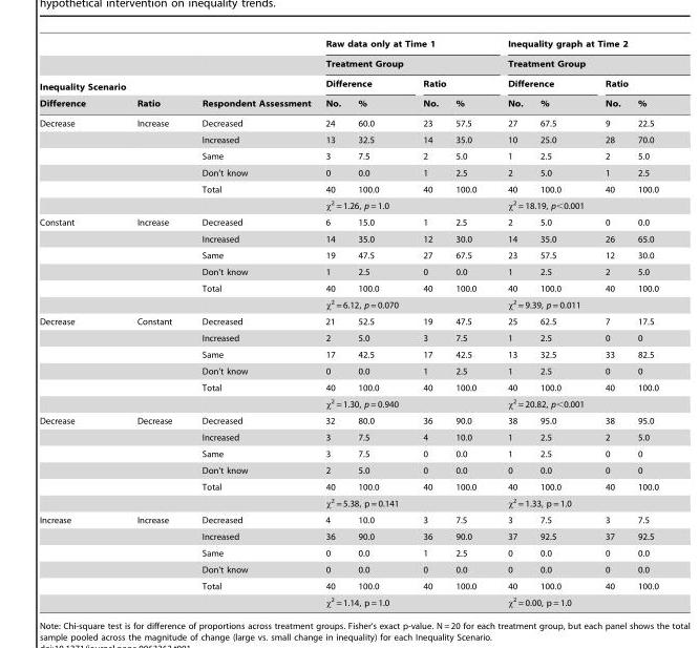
<table><thead><tr><td rowspan="2"></td><td rowspan="2"></td><td rowspan="4">Respondent Assessment</td><td rowspan="2" colspan="4">Raw data only at Time 1 Treatment Group</td><td rowspan="2" colspan="4">Inequality graph at Time 2 Treatment Group</td></tr><tr></tr><tr><td colspan="2">Inequality Scenario</td><td colspan="2">Difference</td><td colspan="2">Ratio</td><td colspan="2">Difference</td><td colspan="2">Ratio</td></tr><tr><td>Difference</td><td>Ratio</td><td>No.</td><td>%</td><td>No.</td><td>%</td><td>No.</td><td>%</td><td>No.</td><td>%</td></tr></thead><tbody><tr><td rowspan="6">Decrease</td><td>Increase</td><td>Decreased</td><td>24</td><td>60.0</td><td>23</td><td>57.5</td><td>27</td><td>67.5</td><td>9</td><td>22.5</td></tr><tr><td></td><td>Increased</td><td>13</td><td>32.5</td><td>14</td><td>35.0</td><td>10</td><td>25.0</td><td>28</td><td>70.0</td></tr><tr><td></td><td>Same</td><td>3</td><td>7.5</td><td>2</td><td>5.0</td><td>1</td><td>2.5</td><td>2</td><td>5.0</td></tr><tr><td></td><td>Don’t know</td><td>0</td><td>0.0</td><td>1</td><td>2.5</td><td>2</td><td>5.0</td><td>1</td><td>2.5</td></tr><tr><td></td><td>Total</td><td>40</td><td>100.0</td><td>40</td><td>100.0</td><td>40</td><td>100.0</td><td>40</td><td>100.0</td></tr><tr><td></td><td></td><td colspan="4">x2 = 1.26, p = 1.0</td><td colspan="4">x2 = 18.19, p,0.001</td></tr><tr><td rowspan="6">Constant</td><td>Increase</td><td>Decreased</td><td>6</td><td>15.0</td><td>1</td><td>2.5</td><td>2</td><td>5.0</td><td>0</td><td>0.0</td></tr><tr><td></td><td>Increased</td><td>14</td><td>35.0</td><td>12</td><td>30.0</td><td>14</td><td>35.0</td><td>26</td><td>65.0</td></tr><tr><td></td><td>Same</td><td>19</td><td>47.5</td><td>27</td><td>67.5</td><td>23</td><td>57.5</td><td>12</td><td>30.0</td></tr><tr><td></td><td>Don’t know</td><td>1</td><td>2.5</td><td>0</td><td>0.0</td><td>1</td><td>2.5</td><td>2</td><td>5.0</td></tr><tr><td></td><td>Total</td><td>40</td><td>100.0</td><td>40</td><td>100.0</td><td>40</td><td>100.0</td><td>40</td><td>100.0</td></tr><tr><td></td><td></td><td colspan="4">x2 = 6.12, p = 0.070</td><td colspan="4">x2 = 9.39, p = 0.011</td></tr><tr><td rowspan="6">Decrease</td><td>Constant</td><td>Decreased</td><td>21</td><td>52.5</td><td>19</td><td>47.5</td><td>25</td><td>62.5</td><td>7</td><td>17.5</td></tr><tr><td></td><td>Increased</td><td>2</td><td>5.0</td><td>3</td><td>7.5</td><td>1</td><td>2.5</td><td>0</td><td>0</td></tr><tr><td></td><td>Same</td><td>17</td><td>42.5</td><td>17</td><td>42.5</td><td>13</td><td>32.5</td><td>33</td><td>82.5</td></tr><tr><td></td><td>Don’t know</td><td>0</td><td>0.0</td><td>1</td><td>2.5</td><td>1</td><td>2.5</td><td>0</td><td>0</td></tr><tr><td></td><td>Total</td><td>40</td><td>100.0</td><td>40</td><td>100.0</td><td>40</td><td>100.0</td><td>40</td><td>100.0</td></tr><tr><td></td><td></td><td colspan="4">x2 = 1.30, p = 0.940</td><td colspan="4">x2 = 20.82, p,0.001</td></tr><tr><td rowspan="6">Decrease</td><td>Decrease</td><td>Decreased</td><td>32</td><td>80.0</td><td>36</td><td>90.0</td><td>38</td><td>95.0</td><td>38</td><td>95.0</td></tr><tr><td></td><td>Increased</td><td>3</td><td>7.5</td><td>4</td><td>10.0</td><td>1</td><td>2.5</td><td>2</td><td>5.0</td></tr><tr><td></td><td>Same</td><td>3</td><td>7.5</td><td>0</td><td>0.0</td><td>1</td><td>2.5</td><td>0</td><td>0</td></tr><tr><td></td><td>Don’t know</td><td>2</td><td>5.0</td><td>0</td><td>0.0</td><td>0</td><td>0.0</td><td>0</td><td>0</td></tr><tr><td></td><td>Total</td><td>40</td><td>100.0</td><td>40</td><td>100.0</td><td>40</td><td>100.0</td><td>40</td><td>100.0</td></tr><tr><td></td><td></td><td colspan="4">x2 = 5.38, p = 0.141</td><td colspan="4">x2 = 1.33, p = 1.0</td></tr><tr><td rowspan="6">Increase</td><td>Increase</td><td>Decreased</td><td>4</td><td>10.0</td><td>3</td><td>7.5</td><td>3</td><td>7.5</td><td>3</td><td>7.5</td></tr><tr><td></td><td>Increased</td><td>36</td><td>90.0</td><td>36</td><td>90.0</td><td>37</td><td>92.5</td><td>37</td><td>92.5</td></tr><tr><td></td><td>Same</td><td>0</td><td>0.0</td><td>1</td><td>2.5</td><td>0</td><td>0.0</td><td>0</td><td>0.0</td></tr><tr><td></td><td>Don’t know</td><td>0</td><td>0.0</td><td>0</td><td>0.0</td><td>0</td><td>0.0</td><td>0</td><td>0.0</td></tr><tr><td></td><td>Total</td><td>40</td><td>100.0</td><td>40</td><td>100.0</td><td>40</td><td>100.0</td><td>40</td><td>100.0</td></tr><tr><td></td><td></td><td colspan="4">x2 = 1.14, p = 1.0</td><td colspan="4">x2 = 0.00, p = 1.0</td></tr></tbody></table>